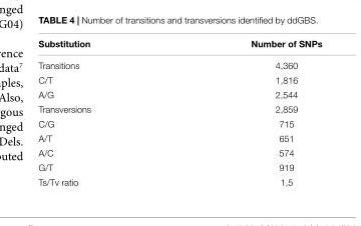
<table><thead><tr><td>Substitution</td><td>Number of SNPs</td></tr></thead><tbody><tr><td>Transitions</td><td>4,360</td></tr><tr><td>C/T</td><td>1,816</td></tr><tr><td>A/G</td><td>2,544</td></tr><tr><td>Transversions</td><td>2,859</td></tr><tr><td>C/G</td><td>715</td></tr><tr><td>A/T</td><td>651</td></tr><tr><td>A/C</td><td>574</td></tr><tr><td>G/T</td><td>919</td></tr><tr><td>Ts/Tv ratio</td><td>1,5</td></tr></tbody></table>